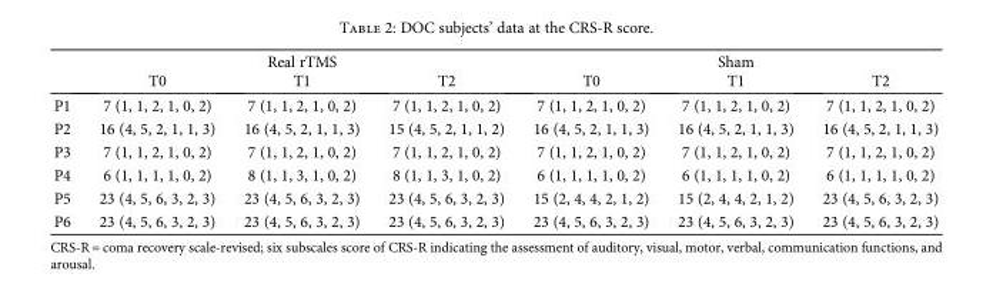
<table><thead><tr><td rowspan="2"></td><td colspan="3">Real rTMS</td><td colspan="3">Sham</td></tr><tr><td>T0</td><td>T1</td><td>T2</td><td>T0</td><td>T1</td><td>T2</td></tr></thead><tbody><tr><td>P1</td><td>7 (1, 1, 2, 1, 0, 2)</td><td>7 (1, 1, 2, 1, 0, 2)</td><td>7 (1, 1, 2, 1, 0, 2)</td><td>7 (1, 1, 2, 1, 0, 2)</td><td>7 (1, 1, 2, 1, 0, 2)</td><td>7 (1, 1, 2, 1, 0, 2)</td></tr><tr><td>P2</td><td>16 (4, 5, 2, 1, 1, 3)</td><td>16 (4, 5, 2, 1, 1, 3)</td><td>15 (4, 5, 2, 1, 1, 2)</td><td>16 (4, 5, 2, 1, 1, 3)</td><td>16 (4, 5, 2, 1, 1, 3)</td><td>16 (4, 5, 2, 1, 1, 3)</td></tr><tr><td>P3</td><td>7 (1, 1, 2, 1, 0, 2)</td><td>7 (1, 1, 2, 1, 0, 2)</td><td>7 (1, 1, 2, 1, 0, 2)</td><td>7 (1, 1, 2, 1, 0, 2)</td><td>7 (1, 1, 2, 1, 0, 2)</td><td>7 (1, 1, 2, 1, 0, 2)</td></tr><tr><td>P4</td><td>6 (1, 1, 1, 1, 0, 2)</td><td>8 (1, 1, 3, 1, 0, 2)</td><td>8 (1, 1, 3, 1, 0, 2)</td><td>6 (1, 1, 1, 1, 0, 2)</td><td>6 (1, 1, 1, 1, 0, 2)</td><td>6 (1, 1, 1, 1, 0, 2)</td></tr><tr><td>P5</td><td>23 (4, 5, 6, 3, 2, 3)</td><td>23 (4, 5, 6, 3, 2, 3)</td><td>23 (4, 5, 6, 3, 2, 3)</td><td>15 (2, 4, 4, 2, 1, 2)</td><td>15 (2, 4, 4, 2, 1, 2)</td><td>23 (4, 5, 6, 3, 2, 3)</td></tr><tr><td>P6</td><td>23 (4, 5, 6, 3, 2, 3)</td><td>23 (4, 5, 6, 3, 2, 3)</td><td>23 (4, 5, 6, 3, 2, 3)</td><td>23 (4, 5, 6, 3, 2, 3)</td><td>23 (4, 5, 6, 3, 2, 3)</td><td>23 (4, 5, 6, 3, 2, 3)</td></tr></tbody></table>